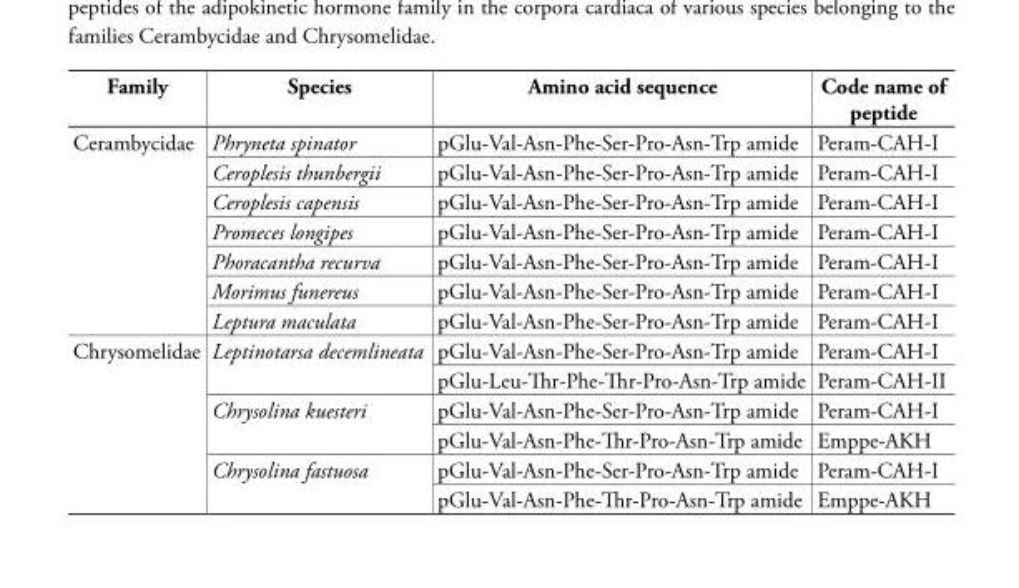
<table><thead><tr><td>Family</td><td>Species</td><td>Amino acid sequence</td><td>Code name of peptide</td></tr></thead><tbody><tr><td rowspan="7">Cerambycidae</td><td>Phryneta spinator</td><td>pGlu-Val-Asn-Phe-Ser-Pro-Asn-Trp amide</td><td>Peram-CAH-I</td></tr><tr><td>Ceroplesis thunbergii</td><td>pGlu-Val-Asn-Phe-Ser-Pro-Asn-Trp amide</td><td>Peram-CAH-I</td></tr><tr><td>Ceroplesis capensis</td><td>pGlu-Val-Asn-Phe-Ser-Pro-Asn-Trp amide</td><td>Peram-CAH-I</td></tr><tr><td>Promeces longipes</td><td>pGlu-Val-Asn-Phe-Ser-Pro-Asn-Trp amide</td><td>Peram-CAH-I</td></tr><tr><td>Phoracantha recurva</td><td>pGlu-Val-Asn-Phe-Ser-Pro-Asn-Trp amide</td><td>Peram-CAH-I</td></tr><tr><td>Morimus funereus</td><td>pGlu-Val-Asn-Phe-Ser-Pro-Asn-Trp amide</td><td>Peram-CAH-I</td></tr><tr><td>Leptura maculata</td><td>pGlu-Val-Asn-Phe-Ser-Pro-Asn-Trp amide</td><td>Peram-CAH-I</td></tr><tr><td rowspan="6">Chrysomelidae</td><td rowspan="2">Leptinotarsa decemlineata</td><td>pGlu-Val-Asn-Phe-Ser-Pro-Asn-Trp amide</td><td>Peram-CAH-I</td></tr><tr><td>pGlu-Leu-Thr-Phe-Thr-Pro-Asn-Trp amide</td><td>Peram-CAH-II</td></tr><tr><td rowspan="2">Chrysolina kuesteri</td><td>pGlu-Val-Asn-Phe-Ser-Pro-Asn-Trp amide</td><td>Peram-CAH-I</td></tr><tr><td>pGlu-Val-Asn-Phe-Thr-Pro-Asn-Trp amide</td><td>Emppe-AKH</td></tr><tr><td rowspan="2">Chrysolina fastuosa</td><td>pGlu-Val-Asn-Phe-Ser-Pro-Asn-Trp amide</td><td>Peram-CAH-I</td></tr><tr><td>pGlu-Val-Asn-Phe-Thr-Pro-Asn-Trp amide</td><td>Emppe-AKH</td></tr></tbody></table>